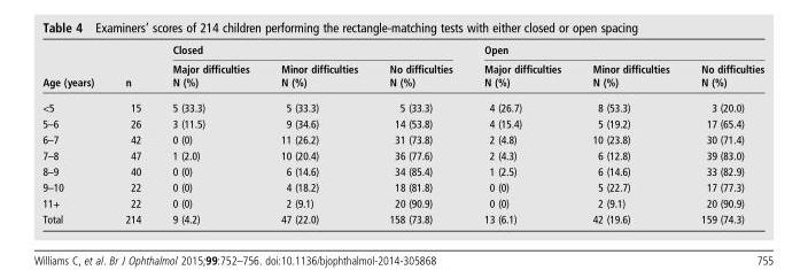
<table><thead><tr><td rowspan="2">Age (years)</td><td rowspan="2">n</td><td colspan="3">Closed</td><td colspan="3">Open</td></tr><tr><td>Major difficulties N (%)</td><td>Minor difficulties N (%)</td><td>No difficulties N (%)</td><td>Major difficulties N (%)</td><td>Minor difficulties N (%)</td><td>No difficulties N (%)</td></tr></thead><tbody><tr><td>&lt;5</td><td>15</td><td>5 (33.3)</td><td>5 (33.3)</td><td>5 (33.3)</td><td>4 (26.7)</td><td>8 (53.3)</td><td>3 (20.0)</td></tr><tr><td>5–6</td><td>26</td><td>3 (11.5)</td><td>9 (34.6)</td><td>14 (53.8)</td><td>4 (15.4)</td><td>5 (19.2)</td><td>17 (65.4)</td></tr><tr><td>6–7</td><td>42</td><td>0 (0)</td><td>11 (26.2)</td><td>31 (73.8)</td><td>2 (4.8)</td><td>10 (23.8)</td><td>30 (71.4)</td></tr><tr><td>7–8</td><td>47</td><td>1 (2.0)</td><td>10 (20.4)</td><td>36 (77.6)</td><td>2 (4.3)</td><td>6 (12.8)</td><td>39 (83.0)</td></tr><tr><td>8–9</td><td>40</td><td>0 (0)</td><td>6 (14.6)</td><td>34 (85.4)</td><td>1 (2.5)</td><td>6 (14.6)</td><td>33 (82.9)</td></tr><tr><td>9–10</td><td>22</td><td>0 (0)</td><td>4 (18.2)</td><td>18 (81.8)</td><td>0 (0)</td><td>5 (22.7)</td><td>17 (77.3)</td></tr><tr><td>11+</td><td>22</td><td>0 (0)</td><td>2 (9.1)</td><td>20 (90.9)</td><td>0 (0)</td><td>2 (9.1)</td><td>20 (90.9)</td></tr><tr><td>Total</td><td>214</td><td>9 (4.2)</td><td>47 (22.0)</td><td>158 (73.8)</td><td>13 (6.1)</td><td>42 (19.6)</td><td>159 (74.3)</td></tr></tbody></table>